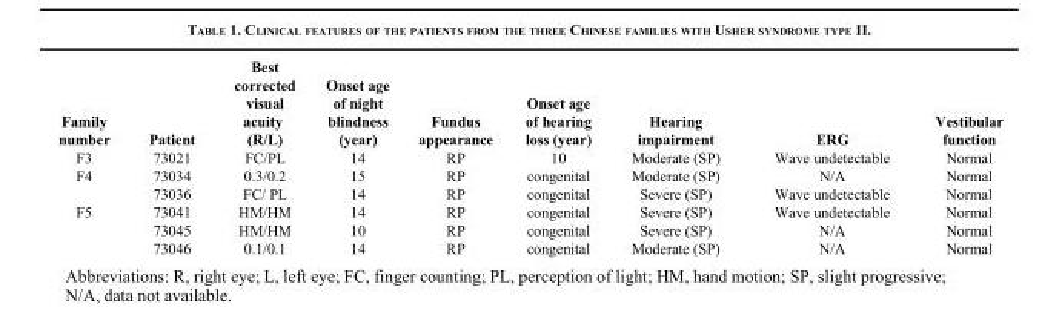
<table><thead><tr><td>Family number</td><td>Patient</td><td>Best corrected visual acuity (R/L)</td><td>Onset age of night blindness (year)</td><td>Fundus appearance</td><td>Onset age of hearing loss (year)</td><td>Hearing impairment</td><td>ERG</td><td>Vestibular function</td></tr></thead><tbody><tr><td>F3</td><td>73021</td><td>FC/PL</td><td>14</td><td>RP</td><td>10</td><td>Moderate (SP)</td><td>Wave undetectable</td><td>Normal</td></tr><tr><td rowspan="2">F4</td><td>73034</td><td>0.3/0.2</td><td>15</td><td>RP</td><td>congenital</td><td>Moderate (SP)</td><td>N/A</td><td>Normal</td></tr><tr><td>73036</td><td>FC/ PL</td><td>14</td><td>RP</td><td>congenital</td><td>Severe (SP)</td><td>Wave undetectable</td><td>Normal</td></tr><tr><td rowspan="3">F5</td><td>73041</td><td>HM/HM</td><td>14</td><td>RP</td><td>congenital</td><td>Severe (SP)</td><td>Wave undetectable</td><td>Normal</td></tr><tr><td>73045</td><td>HM/HM</td><td>10</td><td>RP</td><td>congenital</td><td>Severe (SP)</td><td>N/A</td><td>Normal</td></tr><tr><td>73046</td><td>0.1/0.1</td><td>14</td><td>RP</td><td>congenital</td><td>Moderate (SP)</td><td>N/A</td><td>Normal</td></tr></tbody></table>